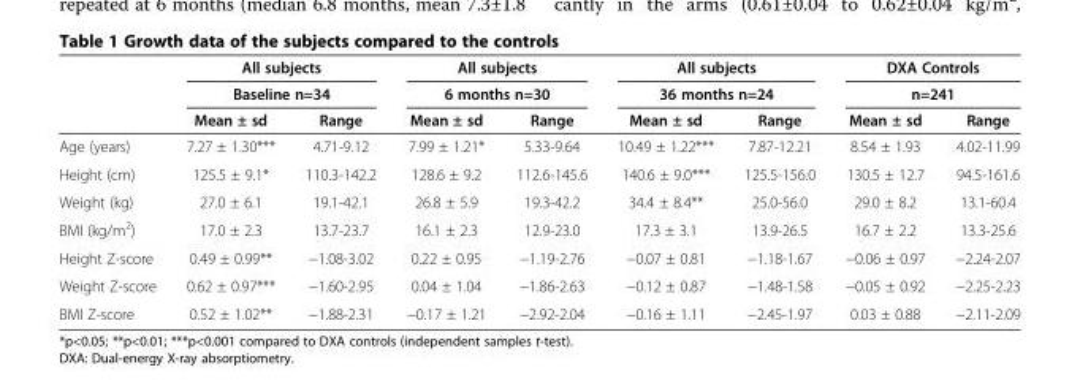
<table><thead><tr><td rowspan="3"></td><td rowspan="2" colspan="2">All subjects Baseline n=34</td><td rowspan="2" colspan="2">All subjects 6 months n=30</td><td rowspan="2" colspan="2">All subjects 36 months n=24</td><td rowspan="2" colspan="2">DXA Controls n=241</td></tr><tr></tr><tr><td>Mean ± sd</td><td>Range</td><td>Mean ± sd</td><td>Range</td><td>Mean ± sd</td><td>Range</td><td>Mean ± sd</td><td>Range</td></tr></thead><tbody><tr><td>Age (years)</td><td>7.27 ± 1.30***</td><td>4.71-9.12</td><td>7.99 ± 1.21*</td><td>5.33-9.64</td><td>10.49 ± 1.22***</td><td>7.87-12.21</td><td>8.54 ± 1.93</td><td>4.02-11.99</td></tr><tr><td>Height (cm)</td><td>125.5 ± 9.1*</td><td>110.3-142.2</td><td>128.6 ± 9.2</td><td>112.6-145.6</td><td>140.6 ± 9.0***</td><td>125.5-156.0</td><td>130.5 ± 12.7</td><td>94.5-161.6</td></tr><tr><td>Weight (kg)</td><td>27.0 ± 6.1</td><td>19.1-42.1</td><td>26.8 ± 5.9</td><td>19.3-42.2</td><td>34.4 ± 8.4**</td><td>25.0-56.0</td><td>29.0 ± 8.2</td><td>13.1-60.4</td></tr><tr><td>BMI (kg/m<sup>2</sup>)</td><td>17.0 ± 2.3</td><td>13.7-23.7</td><td>16.1 ± 2.3</td><td>12.9-23.0</td><td>17.3 ± 3.1</td><td>13.9-26.5</td><td>16.7 ± 2.2</td><td>13.3-25.6</td></tr><tr><td>Height Z-score</td><td>0.49 ± 0.99**</td><td>−1.08-3.02</td><td>0.22 ± 0.95</td><td>−1.19-2.76</td><td>−0.07 ± 0.81</td><td>−1.18-1.67</td><td>−0.06 ± 0.97</td><td>−2.24-2.07</td></tr><tr><td>Weight Z-score</td><td>0.62 ± 0.97***</td><td>−1.60-2.95</td><td>0.04 ± 1.04</td><td>−1.86-2.63</td><td>−0.12 ± 0.87</td><td>−1.48-1.58</td><td>−0.05 ± 0.92</td><td>−2.25-2.23</td></tr><tr><td>BMI Z-score</td><td>0.52 ± 1.02**</td><td>−1.88-2.31</td><td>−0.17 ± 1.21</td><td>−2.92-2.04</td><td>−0.16 ± 1.11</td><td>−2.45-1.97</td><td>0.03 ± 0.88</td><td>−2.11-2.09</td></tr></tbody></table>